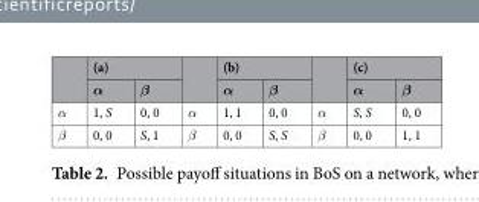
<table><thead><tr><td rowspan="2"></td><td colspan="2">(a)</td><td rowspan="2"></td><td colspan="2">(b)</td><td rowspan="2"></td><td colspan="2">(c)</td></tr><tr><td>α</td><td>β</td><td>α</td><td>β</td><td>α</td><td>β</td></tr></thead><tbody><tr><td>α</td><td>1, S</td><td>0, 0</td><td>α</td><td>1, 1</td><td>0, 0</td><td>α</td><td>S, S</td><td>0, 0</td></tr><tr><td>β</td><td>0, 0</td><td>S, 1</td><td>β</td><td>0, 0</td><td>S, S</td><td>β</td><td>0, 0</td><td>1, 1</td></tr></tbody></table>